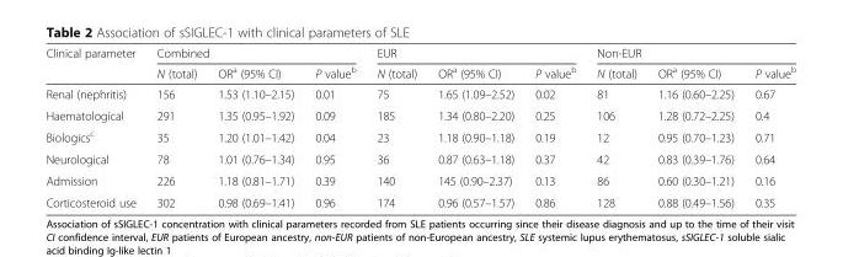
<table><thead><tr><td rowspan="2">Clinical parameter</td><td colspan="3">Combined</td><td colspan="3">EUR</td><td colspan="3">Non-EUR</td></tr><tr><td>N (total)</td><td>OR<sup>a</sup> (95% CI)</td><td>P value<sup>b</sup></td><td>N (total)</td><td>OR<sup>a</sup> (95% CI)</td><td>P value<sup>b</sup></td><td>N (total)</td><td>OR<sup>a</sup> (95% CI)</td><td>P value<sup>b</sup></td></tr></thead><tbody><tr><td>Renal (nephritis)</td><td>156</td><td>1.53 (1.10–2.15)</td><td>0.01</td><td>75</td><td>1.65 (1.09–2.52)</td><td>0.02</td><td>81</td><td>1.16 (0.60–2.25)</td><td>0.67</td></tr><tr><td>Haematological</td><td>291</td><td>1.35 (0.95–1.92)</td><td>0.09</td><td>185</td><td>1.34 (0.80–2.20)</td><td>0.25</td><td>106</td><td>1.28 (0.72–2.25)</td><td>0.4</td></tr><tr><td>Biologics<sup>c</sup></td><td>35</td><td>1.20 (1.01–1.42)</td><td>0.04</td><td>23</td><td>1.18 (0.90–1.18)</td><td>0.19</td><td>12</td><td>0.95 (0.70–1.23)</td><td>0.71</td></tr><tr><td>Neurological</td><td>78</td><td>1.01 (0.76–1.34)</td><td>0.95</td><td>36</td><td>0.87 (0.63–1.18)</td><td>0.37</td><td>42</td><td>0.83 (0.39–1.76)</td><td>0.64</td></tr><tr><td>Admission</td><td>226</td><td>1.18 (0.81–1.71)</td><td>0.39</td><td>140</td><td>145 (0.90–2.37)</td><td>0.13</td><td>86</td><td>0.60 (0.30–1.21)</td><td>0.16</td></tr><tr><td>Corticosteroid use</td><td>302</td><td>0.98 (0.69–1.41)</td><td>0.96</td><td>174</td><td>0.96 (0.57–1.57)</td><td>0.86</td><td>128</td><td>0.88 (0.49–1.56)</td><td>0.35</td></tr></tbody></table>